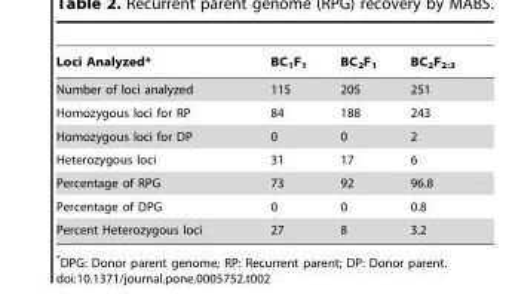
<table><thead><tr><td>Loci Analyzed*</td><td>BC<sub>1</sub>F<sub>1</sub></td><td>BC<sub>2</sub>F<sub>1</sub></td><td>BC2F2:3</td></tr></thead><tbody><tr><td>Number of loci analyzed</td><td>115</td><td>205</td><td>251</td></tr><tr><td>Homozygous loci for RP</td><td>84</td><td>188</td><td>243</td></tr><tr><td>Homozygous loci for DP</td><td>0</td><td>0</td><td>2</td></tr><tr><td>Heterozygous loci</td><td>31</td><td>17</td><td>6</td></tr><tr><td>Percentage of RPG</td><td>73</td><td>92</td><td>96.8</td></tr><tr><td>Percentage of DPG</td><td>0</td><td>0</td><td>0.8</td></tr><tr><td>Percent Heterozygous loci</td><td>27</td><td>8</td><td>3.2</td></tr></tbody></table>